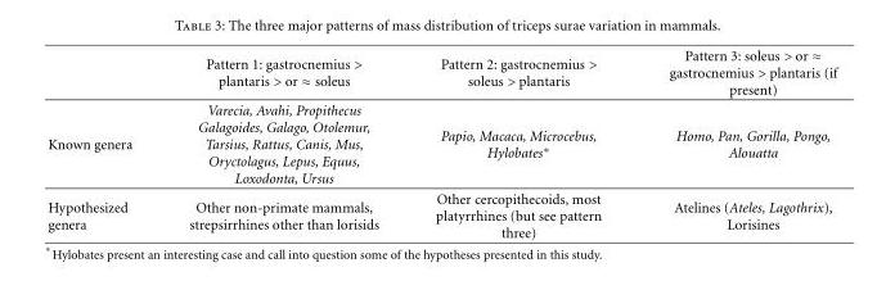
<table><thead><tr><td></td><td>Pattern 1: gastrocnemius &gt; plantaris &gt; or ≈ soleus</td><td>Pattern 2: gastrocnemius &gt; soleus &gt; plantaris</td><td>Pattern 3: soleus &gt; or ≈ gastrocnemius &gt; plantaris (if present)</td></tr></thead><tbody><tr><td>Known genera</td><td>Varecia, Avahi, Propithecus Galagoides, Galago, Otolemur, Tarsius, Rattus, Canis, Mus, Oryctolagus, Lepus, Equus, Loxodonta, Ursus</td><td>Papio, Macaca, Microcebus, Hylobates∗</td><td>Homo, Pan, Gorilla, Pongo, Alouatta</td></tr><tr><td>Hypothesized genera</td><td>Other non-primate mammals, strepsirrhines other than lorisids</td><td>Other cercopithecoids, most platyrrhines (but see pattern three)</td><td>Atelines (Ateles, Lagothrix), Lorisines</td></tr></tbody></table>